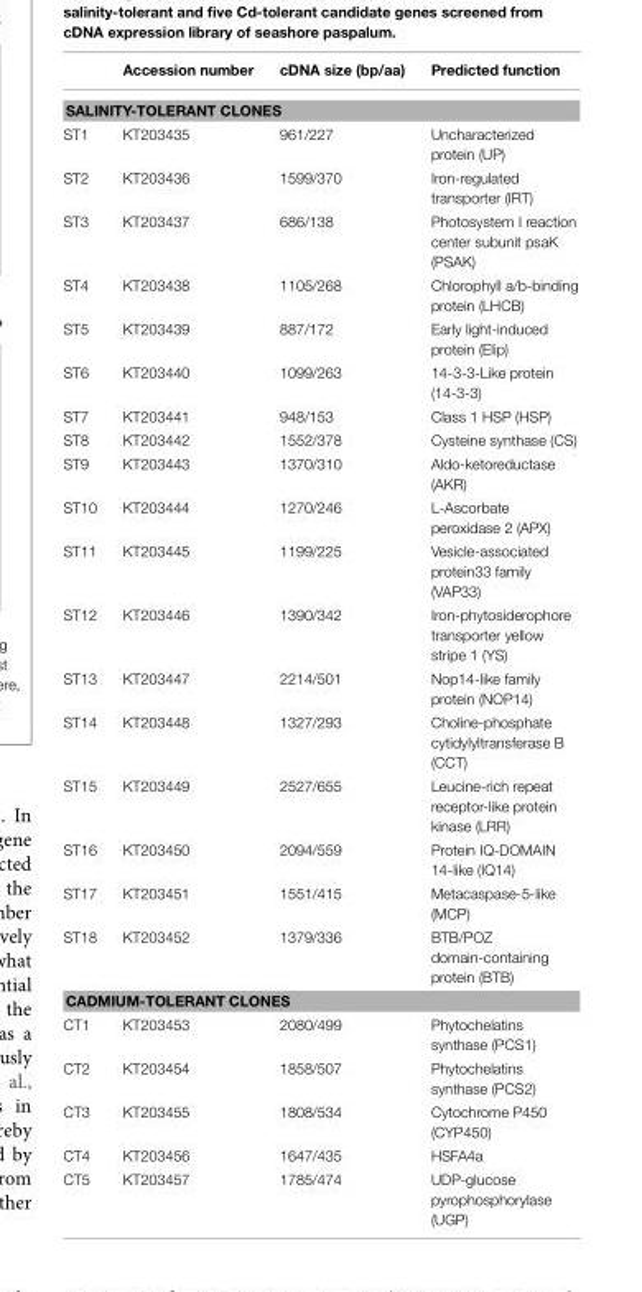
<table><thead><tr><td></td><td>Accession number</td><td>cDNA size (bp/aa)</td><td>Predicted function</td></tr></thead><tbody><tr><td colspan="4">SALINITY-TOLERANT CLONES</td></tr><tr><td>ST1</td><td>KT203435</td><td>961/227</td><td>Uncharacterized protein (UP)</td></tr><tr><td>ST2</td><td>KT203436</td><td>1599/370</td><td>Iron-regulated transporter (IRT)</td></tr><tr><td>ST3</td><td>KT203437</td><td>686/138</td><td>Photosystem I reaction center subunit psaK (PSAK)</td></tr><tr><td>ST4</td><td>KT203438</td><td>1105/268</td><td>Chlorophyll a/b-binding protein (LHCB)</td></tr><tr><td>ST5</td><td>KT203439</td><td>887/172</td><td>Early light-induced protein (Elip)</td></tr><tr><td>ST6</td><td>KT203440</td><td>1099/263</td><td>14-3-3-Like protein (14-3-3)</td></tr><tr><td>ST7</td><td>KT203441</td><td>948/153</td><td>Class 1 HSP (HSP)</td></tr><tr><td>ST8</td><td>KT203442</td><td>1552/378</td><td>Cysteine synthase (CS)</td></tr><tr><td>ST9</td><td>KT203443</td><td>1370/310</td><td>Aldo-ketoreductase (AKR)</td></tr><tr><td>ST10</td><td>KT203444</td><td>1270/246</td><td>L-Ascorbate peroxidase 2 (APX)</td></tr><tr><td>ST11</td><td>KT203445</td><td>1199/225</td><td>Vesicle-associated protein33 family (VAP33)</td></tr><tr><td>ST12</td><td>KT203446</td><td>1390/342</td><td>Iron-phytosiderophore transporter yellow stripe 1 (YS)</td></tr><tr><td>ST13</td><td>KT203447</td><td>2214/501</td><td>Nop14-like family protein (NOP14)</td></tr><tr><td>ST14</td><td>KT203448</td><td>1327/293</td><td>Choline-phosphate cytidylyltransferase B (CCT)</td></tr><tr><td>ST15</td><td>KT203449</td><td>2527/655</td><td>Leucine-rich repeat receptor-like protein kinase (LRR)</td></tr><tr><td>ST16</td><td>KT203450</td><td>2094/559</td><td>Protein IQ-DOMAIN 14-like (IQ14)</td></tr><tr><td>ST17</td><td>KT203451</td><td>1551/415</td><td>Metacaspase-5-like (MCP)</td></tr><tr><td>ST18</td><td>KT203452</td><td>1379/336</td><td>BTB/POZ domain-containing protein (BTB)</td></tr><tr><td colspan="4">CADMIUM-TOLERANT CLONES</td></tr><tr><td>CT1</td><td>KT203453</td><td>2080/499</td><td>Phytochelatins synthase (PCS1)</td></tr><tr><td>CT2</td><td>KT203454</td><td>1858/507</td><td>Phytochelatins synthase (PCS2)</td></tr><tr><td>CT3</td><td>KT203455</td><td>1808/534</td><td>Cytochrome P450 (CYP450)</td></tr><tr><td>CT4</td><td>KT203456</td><td>1647/435</td><td>HSFA4a</td></tr><tr><td>CT5</td><td>KT203457</td><td>1785/474</td><td>UDP-glucose pyrophosphorylase (UGP)</td></tr></tbody></table>